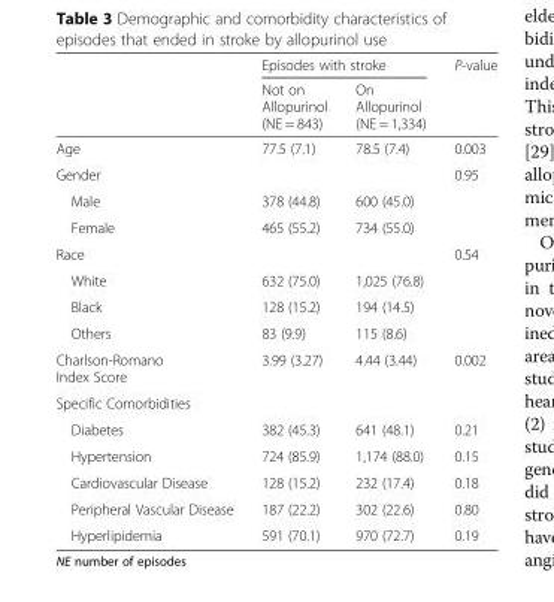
<table><thead><tr><td rowspan="2"></td><td colspan="2">Episodes with stroke</td><td rowspan="2">P-value</td></tr><tr><td>Not on Allopurinol (NE = 843)</td><td>On Allopurinol (NE = 1,334)</td></tr></thead><tbody><tr><td>Age</td><td>77.5 (7.1)</td><td>78.5 (7.4)</td><td>0.003</td></tr><tr><td>Gender</td><td></td><td></td><td>0.95</td></tr><tr><td>Male</td><td>378 (44.8)</td><td>600 (45.0)</td><td></td></tr><tr><td>Female</td><td>465 (55.2)</td><td>734 (55.0)</td><td></td></tr><tr><td>Race</td><td></td><td></td><td>0.54</td></tr><tr><td>White</td><td>632 (75.0)</td><td>1,025 (76.8)</td><td></td></tr><tr><td>Black</td><td>128 (15.2)</td><td>194 (14.5)</td><td></td></tr><tr><td>Others</td><td>83 (9.9)</td><td>115 (8.6)</td><td></td></tr><tr><td>Charlson-Romano Index Score</td><td>3.99 (3.27)</td><td>4.44 (3.44)</td><td>0.002</td></tr><tr><td colspan="4">Specific Comorbidities</td></tr><tr><td>Diabetes</td><td>382 (45.3)</td><td>641 (48.1)</td><td>0.21</td></tr><tr><td>Hypertension</td><td>724 (85.9)</td><td>1,174 (88.0)</td><td>0.15</td></tr><tr><td>Cardiovascular Disease</td><td>128 (15.2)</td><td>232 (17.4)</td><td>0.18</td></tr><tr><td>Peripheral Vascular Disease</td><td>187 (22.2)</td><td>302 (22.6)</td><td>0.80</td></tr><tr><td>Hyperlipidemia</td><td>591 (70.1)</td><td>970 (72.7)</td><td>0.19</td></tr></tbody></table>